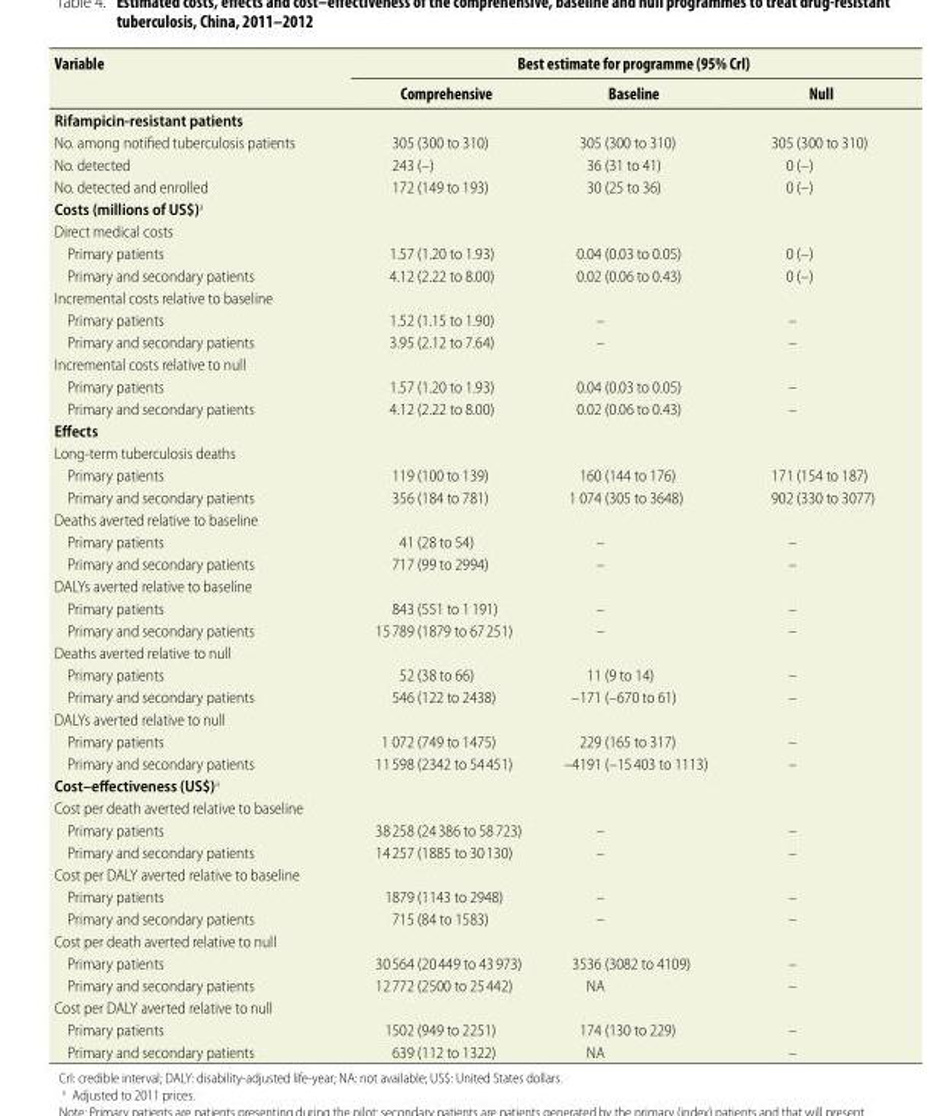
<table><thead><tr><td rowspan="2">Variable</td><td colspan="3">Best estimate for programme (95% CrI)</td></tr><tr><td>Comprehensive</td><td>Baseline</td><td>Null</td></tr></thead><tbody><tr><td colspan="4">Rifampicin-resistant patients</td></tr><tr><td>No. among notified tuberculosis patients</td><td>305 (300 to 310)</td><td>305 (300 to 310)</td><td>305 (300 to 310)</td></tr><tr><td>No. detected</td><td>243 (–)</td><td>36 (31 to 41)</td><td>0 (–)</td></tr><tr><td>No. detected and enrolled</td><td>172 (149 to 193)</td><td>30 (25 to 36)</td><td>0 (–)</td></tr><tr><td colspan="4">Costs (millions of US$)<sup>a</sup></td></tr><tr><td colspan="4">Direct medical costs</td></tr><tr><td>Primary patients</td><td>1.57 (1.20 to 1.93)</td><td>0.04 (0.03 to 0.05)</td><td>0 (–)</td></tr><tr><td>Primary and secondary patients</td><td>4.12 (2.22 to 8.00)</td><td>0.02 (0.06 to 0.43)</td><td>0 (–)</td></tr><tr><td colspan="4">Incremental costs relative to baseline</td></tr><tr><td>Primary patients</td><td>1.52 (1.15 to 1.90)</td><td>–</td><td>–</td></tr><tr><td>Primary and secondary patients</td><td>3.95 (2.12 to 7.64)</td><td>–</td><td>–</td></tr><tr><td colspan="4">Incremental costs relative to null</td></tr><tr><td>Primary patients</td><td>1.57 (1.20 to 1.93)</td><td>0.04 (0.03 to 0.05)</td><td>–</td></tr><tr><td>Primary and secondary patients</td><td>4.12 (2.22 to 8.00)</td><td>0.02 (0.06 to 0.43)</td><td>–</td></tr><tr><td colspan="4">Effects</td></tr><tr><td colspan="4">Long-term tuberculosis deaths</td></tr><tr><td>Primary patients</td><td>119 (100 to 139)</td><td>160 (144 to 176)</td><td>171 (154 to 187)</td></tr><tr><td>Primary and secondary patients</td><td>356 (184 to 781)</td><td>1 074 (305 to 3648)</td><td>902 (330 to 3077)</td></tr><tr><td colspan="4">Deaths averted relative to baseline</td></tr><tr><td>Primary patients</td><td>41 (28 to 54)</td><td>–</td><td>–</td></tr><tr><td>Primary and secondary patients</td><td>717 (99 to 2994)</td><td>–</td><td>–</td></tr><tr><td colspan="4">DALYs averted relative to baseline</td></tr><tr><td>Primary patients</td><td>843 (551 to 1 191)</td><td>–</td><td>–</td></tr><tr><td>Primary and secondary patients</td><td>15 789 (1879 to 67 251)</td><td>–</td><td>–</td></tr><tr><td colspan="4">Deaths averted relative to null</td></tr><tr><td>Primary patients</td><td>52 (38 to 66)</td><td>11 (9 to 14)</td><td>–</td></tr><tr><td>Primary and secondary patients</td><td>546 (122 to 2438)</td><td>–171 (–670 to 61)</td><td>–</td></tr><tr><td colspan="4">DALYs averted relative to null</td></tr><tr><td>Primary patients</td><td>1 072 (749 to 1475)</td><td>229 (165 to 317)</td><td>–</td></tr><tr><td>Primary and secondary patients</td><td>11 598 (2342 to 54 451)</td><td>–4191 (–15 403 to 1113)</td><td>–</td></tr><tr><td colspan="4">Cost–effectiveness (US$)<sup>a</sup></td></tr><tr><td colspan="4">Cost per death averted relative to baseline</td></tr><tr><td>Primary patients</td><td>38 258 (24 386 to 58 723)</td><td>–</td><td>–</td></tr><tr><td>Primary and secondary patients</td><td>14 257 (1885 to 30 130)</td><td>–</td><td>–</td></tr><tr><td colspan="4">Cost per DALY averted relative to baseline</td></tr><tr><td>Primary patients</td><td>1879 (1143 to 2948)</td><td>–</td><td>–</td></tr><tr><td>Primary and secondary patients</td><td>715 (84 to 1583)</td><td>–</td><td>–</td></tr><tr><td colspan="4">Cost per death averted relative to null</td></tr><tr><td>Primary patients</td><td>30 564 (20 449 to 43 973)</td><td>3536 (3082 to 4109)</td><td>–</td></tr><tr><td>Primary and secondary patients</td><td>12 772 (2500 to 25 442)</td><td>NA</td><td>–</td></tr><tr><td colspan="4">Cost per DALY averted relative to null</td></tr><tr><td>Primary patients</td><td>1502 (949 to 2251)</td><td>174 (130 to 229)</td><td>–</td></tr><tr><td>Primary and secondary patients</td><td>639 (112 to 1322)</td><td>NA</td><td>–</td></tr></tbody></table>